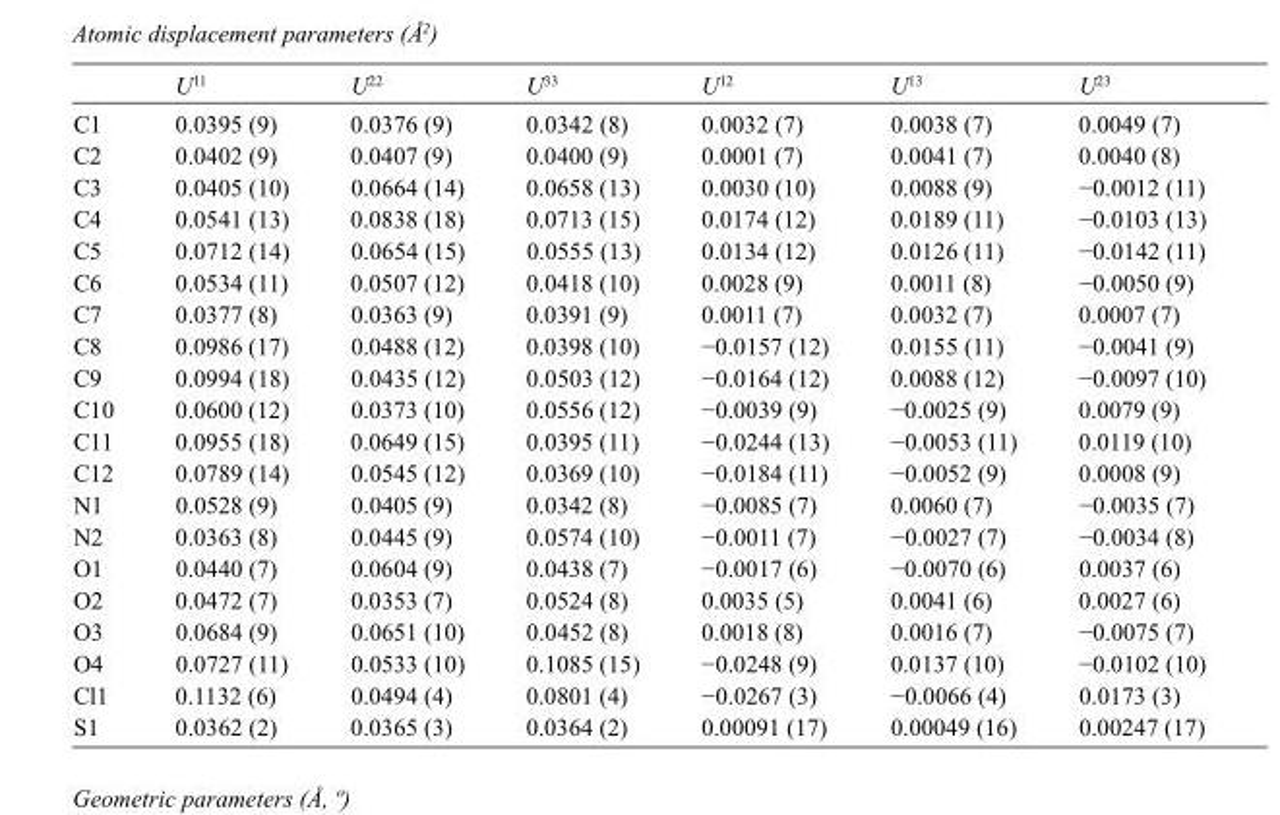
<table><thead><tr><td></td><td>U<sup>11</sup></td><td>U<sup>22</sup></td><td>U<sup>33</sup></td><td>U<sup>12</sup></td><td>U<sup>13</sup></td><td>U<sup>23</sup></td></tr></thead><tbody><tr><td>C1</td><td>0.0395 (9)</td><td>0.0376 (9)</td><td>0.0342 (8)</td><td>0.0032 (7)</td><td>0.0038 (7)</td><td>0.0049 (7)</td></tr><tr><td>C2</td><td>0.0402 (9)</td><td>0.0407 (9)</td><td>0.0400 (9)</td><td>0.0001 (7)</td><td>0.0041 (7)</td><td>0.0040 (8)</td></tr><tr><td>C3</td><td>0.0405 (10)</td><td>0.0664 (14)</td><td>0.0658 (13)</td><td>0.0030 (10)</td><td>0.0088 (9)</td><td>−0.0012 (11)</td></tr><tr><td>C4</td><td>0.0541 (13)</td><td>0.0838 (18)</td><td>0.0713 (15)</td><td>0.0174 (12)</td><td>0.0189 (11)</td><td>−0.0103 (13)</td></tr><tr><td>C5</td><td>0.0712 (14)</td><td>0.0654 (15)</td><td>0.0555 (13)</td><td>0.0134 (12)</td><td>0.0126 (11)</td><td>−0.0142 (11)</td></tr><tr><td>C6</td><td>0.0534 (11)</td><td>0.0507 (12)</td><td>0.0418 (10)</td><td>0.0028 (9)</td><td>0.0011 (8)</td><td>−0.0050 (9)</td></tr><tr><td>C7</td><td>0.0377 (8)</td><td>0.0363 (9)</td><td>0.0391 (9)</td><td>0.0011 (7)</td><td>0.0032 (7)</td><td>0.0007 (7)</td></tr><tr><td>C8</td><td>0.0986 (17)</td><td>0.0488 (12)</td><td>0.0398 (10)</td><td>−0.0157 (12)</td><td>0.0155 (11)</td><td>−0.0041 (9)</td></tr><tr><td>C9</td><td>0.0994 (18)</td><td>0.0435 (12)</td><td>0.0503 (12)</td><td>−0.0164 (12)</td><td>0.0088 (12)</td><td>−0.0097 (10)</td></tr><tr><td>C10</td><td>0.0600 (12)</td><td>0.0373 (10)</td><td>0.0556 (12)</td><td>−0.0039 (9)</td><td>−0.0025 (9)</td><td>0.0079 (9)</td></tr><tr><td>C11</td><td>0.0955 (18)</td><td>0.0649 (15)</td><td>0.0395 (11)</td><td>−0.0244 (13)</td><td>−0.0053 (11)</td><td>0.0119 (10)</td></tr><tr><td>C12</td><td>0.0789 (14)</td><td>0.0545 (12)</td><td>0.0369 (10)</td><td>−0.0184 (11)</td><td>−0.0052 (9)</td><td>0.0008 (9)</td></tr><tr><td>N1</td><td>0.0528 (9)</td><td>0.0405 (9)</td><td>0.0342 (8)</td><td>−0.0085 (7)</td><td>0.0060 (7)</td><td>−0.0035 (7)</td></tr><tr><td>N2</td><td>0.0363 (8)</td><td>0.0445 (9)</td><td>0.0574 (10)</td><td>−0.0011 (7)</td><td>−0.0027 (7)</td><td>−0.0034 (8)</td></tr><tr><td>O1</td><td>0.0440 (7)</td><td>0.0604 (9)</td><td>0.0438 (7)</td><td>−0.0017 (6)</td><td>−0.0070 (6)</td><td>0.0037 (6)</td></tr><tr><td>O2</td><td>0.0472 (7)</td><td>0.0353 (7)</td><td>0.0524 (8)</td><td>0.0035 (5)</td><td>0.0041 (6)</td><td>0.0027 (6)</td></tr><tr><td>O3</td><td>0.0684 (9)</td><td>0.0651 (10)</td><td>0.0452 (8)</td><td>0.0018 (8)</td><td>0.0016 (7)</td><td>−0.0075 (7)</td></tr><tr><td>O4</td><td>0.0727 (11)</td><td>0.0533 (10)</td><td>0.1085 (15)</td><td>−0.0248 (9)</td><td>0.0137 (10)</td><td>−0.0102 (10)</td></tr><tr><td>Cl1</td><td>0.1132 (6)</td><td>0.0494 (4)</td><td>0.0801 (4)</td><td>−0.0267 (3)</td><td>−0.0066 (4)</td><td>0.0173 (3)</td></tr><tr><td>S1</td><td>0.0362 (2)</td><td>0.0365 (3)</td><td>0.0364 (2)</td><td>0.00091 (17)</td><td>0.00049 (16)</td><td>0.00247 (17)</td></tr></tbody></table>